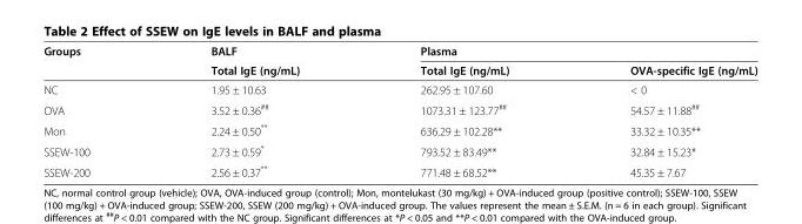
<table><thead><tr><td rowspan="2">Groups</td><td rowspan="2">BALF Total IgE (ng/mL)</td><td colspan="2">Plasma</td></tr><tr><td>Total IgE (ng/mL)</td><td>OVA-specific IgE (ng/mL)</td></tr></thead><tbody><tr><td>NC</td><td>1.95 ± 10.63</td><td>262.95 ± 107.60</td><td>&lt; 0</td></tr><tr><td>OVA</td><td>3.52 ± 0.36<sup>##</sup></td><td>1073.31 ± 123.77<sup>##</sup></td><td>54.57 ± 11.88<sup>##</sup></td></tr><tr><td>Mon</td><td>2.24 ± 0.50**</td><td>636.29 ± 102.28**</td><td>33.32 ± 10.35**</td></tr><tr><td>SSEW-100</td><td>2.73 ± 0.59*</td><td>793.52 ± 83.49**</td><td>32.84 ± 15.23*</td></tr><tr><td>SSEW-200</td><td>2.56 ± 0.37**</td><td>771.48 ± 68.52**</td><td>45.35 ± 7.67</td></tr></tbody></table>